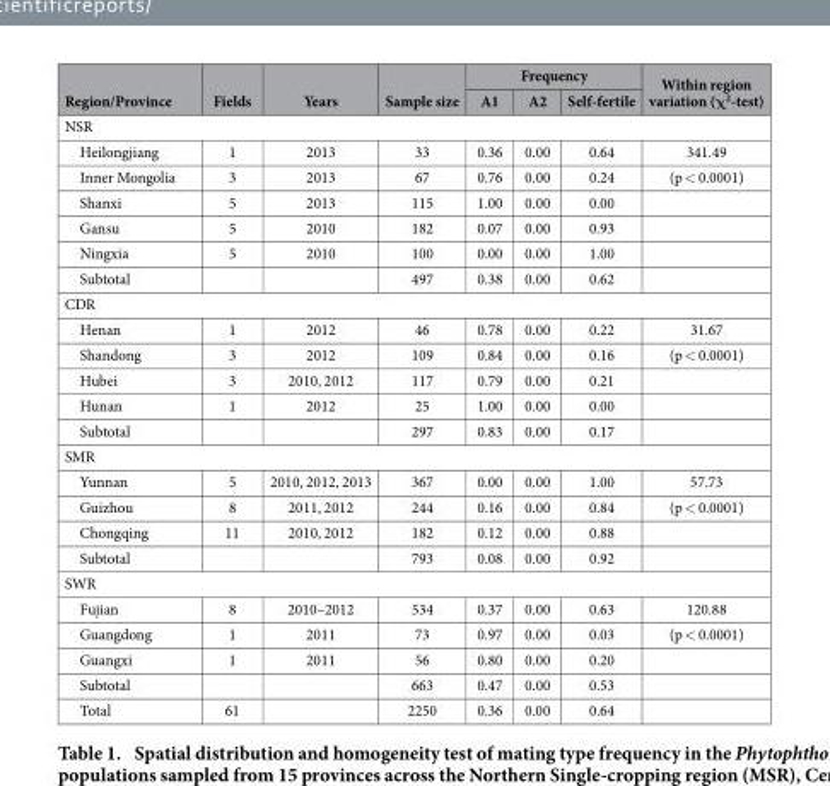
<table><thead><tr><td rowspan="2">Region/Province</td><td rowspan="2">Fields</td><td rowspan="2">Years</td><td rowspan="2">Sample size</td><td colspan="3">Frequency</td><td rowspan="2">Within region variation (χ<sup>2</sup>-test)</td></tr><tr><td>A1</td><td>A2</td><td>Self-fertile</td></tr></thead><tbody><tr><td colspan="8">NSR</td></tr><tr><td>Heilongjiang</td><td>1</td><td>2013</td><td>33</td><td>0.36</td><td>0.00</td><td>0.64</td><td>341.49</td></tr><tr><td>Inner Mongolia</td><td>3</td><td>2013</td><td>67</td><td>0.76</td><td>0.00</td><td>0.24</td><td>(p &lt; 0.0001)</td></tr><tr><td>Shanxi</td><td>5</td><td>2013</td><td>115</td><td>1.00</td><td>0.00</td><td>0.00</td><td></td></tr><tr><td>Gansu</td><td>5</td><td>2010</td><td>182</td><td>0.07</td><td>0.00</td><td>0.93</td><td></td></tr><tr><td>Ningxia</td><td>5</td><td>2010</td><td>100</td><td>0.00</td><td>0.00</td><td>1.00</td><td></td></tr><tr><td>Subtotal</td><td></td><td></td><td>497</td><td>0.38</td><td>0.00</td><td>0.62</td><td></td></tr><tr><td colspan="8">CDR</td></tr><tr><td>Henan</td><td>1</td><td>2012</td><td>46</td><td>0.78</td><td>0.00</td><td>0.22</td><td>31.67</td></tr><tr><td>Shandong</td><td>3</td><td>2012</td><td>109</td><td>0.84</td><td>0.00</td><td>0.16</td><td>(p &lt; 0.0001)</td></tr><tr><td>Hubei</td><td>3</td><td>2010, 2012</td><td>117</td><td>0.79</td><td>0.00</td><td>0.21</td><td></td></tr><tr><td>Hunan</td><td>1</td><td>2012</td><td>25</td><td>1.00</td><td>0.00</td><td>0.00</td><td></td></tr><tr><td>Subtotal</td><td></td><td></td><td>297</td><td>0.83</td><td>0.00</td><td>0.17</td><td></td></tr><tr><td colspan="8">SMR</td></tr><tr><td>Yunnan</td><td>5</td><td>2010, 2012, 2013</td><td>367</td><td>0.00</td><td>0.00</td><td>1.00</td><td>57.73</td></tr><tr><td>Guizhou</td><td>8</td><td>2011, 2012</td><td>244</td><td>0.16</td><td>0.00</td><td>0.84</td><td>(p &lt; 0.0001)</td></tr><tr><td>Chongqing</td><td>11</td><td>2010, 2012</td><td>182</td><td>0.12</td><td>0.00</td><td>0.88</td><td></td></tr><tr><td>Subtotal</td><td></td><td></td><td>793</td><td>0.08</td><td>0.00</td><td>0.92</td><td></td></tr><tr><td colspan="8">SWR</td></tr><tr><td>Fujian</td><td>8</td><td>2010–2012</td><td>534</td><td>0.37</td><td>0.00</td><td>0.63</td><td>120.88</td></tr><tr><td>Guangdong</td><td>1</td><td>2011</td><td>73</td><td>0.97</td><td>0.00</td><td>0.03</td><td>(p &lt; 0.0001)</td></tr><tr><td>Guangxi</td><td>1</td><td>2011</td><td>56</td><td>0.80</td><td>0.00</td><td>0.20</td><td></td></tr><tr><td>Subtotal</td><td></td><td></td><td>663</td><td>0.47</td><td>0.00</td><td>0.53</td><td></td></tr><tr><td>Total</td><td>61</td><td></td><td>2250</td><td>0.36</td><td>0.00</td><td>0.64</td><td></td></tr></tbody></table>